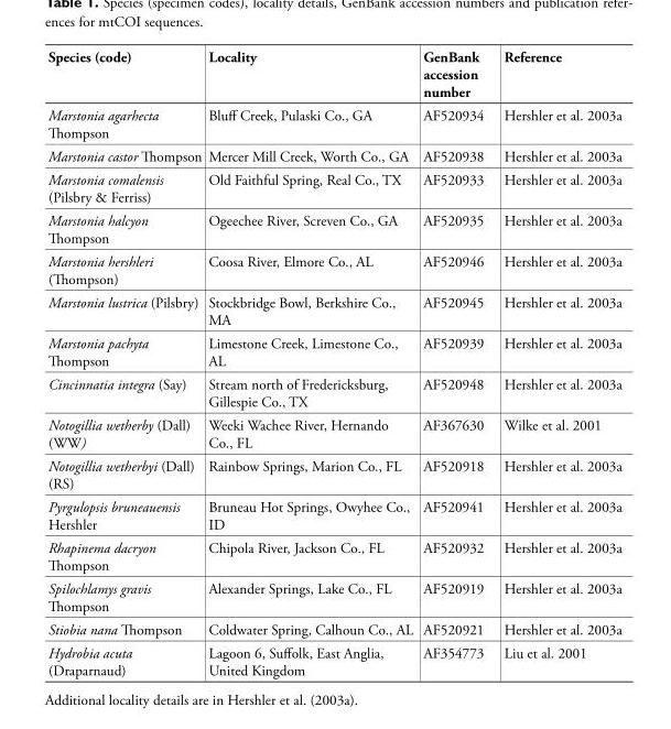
<table><thead><tr><td>Species (code)</td><td>Locality</td><td>GenBank accession number</td><td>Reference</td></tr></thead><tbody><tr><td>Marstonia agarhecta Th ompson</td><td>Bluff Creek, Pulaski Co., GA</td><td>AF520934</td><td>Hershler et al. 2003a</td></tr><tr><td>Marstonia castor Th ompson</td><td>Mercer Mill Creek, Worth Co., GA</td><td>AF520938</td><td>Hershler et al. 2003a</td></tr><tr><td>Marstonia comalensis (Pilsbry &amp; Ferriss)</td><td>Old Faithful Spring, Real Co., TX</td><td>AF520933</td><td>Hershler et al. 2003a</td></tr><tr><td>Marstonia halcyon Th ompson</td><td>Ogeechee River, Screven Co., GA</td><td>AF520935</td><td>Hershler et al. 2003a</td></tr><tr><td>Marstonia hershleri (Th ompson)</td><td>Coosa River, Elmore Co., AL</td><td>AF520946</td><td>Hershler et al. 2003a</td></tr><tr><td>Marstonia lustrica (Pilsbry)</td><td>Stockbridge Bowl, Berkshire Co., MA</td><td>AF520945</td><td>Hershler et al. 2003a</td></tr><tr><td>Marstonia pachyta Th ompson</td><td>Limestone Creek, Limestone Co., AL</td><td>AF520939</td><td>Hershler et al. 2003a</td></tr><tr><td>Cincinnatia integra (Say)</td><td>Stream north of Fredericksburg, Gillespie Co., TX</td><td>AF520948</td><td>Hershler et al. 2003a</td></tr><tr><td>Notogillia wetherby (Dall) (WW)</td><td>Weeki Wachee River, Hernando Co., FL</td><td>AF367630</td><td>Wilke et al. 2001</td></tr><tr><td>Notogillia wetherbyi (Dall) (RS)</td><td>Rainbow Springs, Marion Co., FL</td><td>AF520918</td><td>Hershler et al. 2003a</td></tr><tr><td>Pyrgulopsis bruneauensis Hershler</td><td>Bruneau Hot Springs, Owyhee Co., ID</td><td>AF520941</td><td>Hershler et al. 2003a</td></tr><tr><td>Rhapinema dacryon Th ompson</td><td>Chipola River, Jackson Co., FL</td><td>AF520932</td><td>Hershler et al. 2003a</td></tr><tr><td>Spilochlamys gravis Th ompson</td><td>Alexander Springs, Lake Co., FL</td><td>AF520919</td><td>Hershler et al. 2003a</td></tr><tr><td>Stiobia nana Th ompson</td><td>Coldwater Spring, Calhoun Co., AL</td><td>AF520921</td><td>Hershler et al. 2003a</td></tr><tr><td>Hydrobia acuta (Draparnaud)</td><td>Lagoon 6, Suff olk, East Anglia, United Kingdom</td><td>AF354773</td><td>Liu et al. 2001</td></tr></tbody></table>